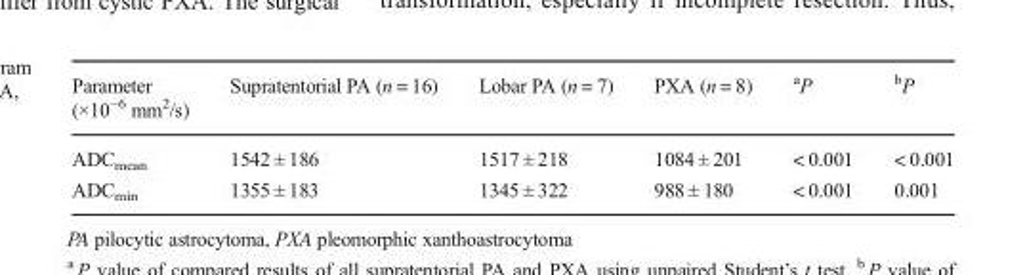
<table><thead><tr><td>Parameter (×10<sup>−6</sup> mm<sup>2</sup>/s)</td><td>Supratentorial PA (n = 16)</td><td>Lobar PA (n = 7)</td><td>PXA (n = 8)</td><td><sup>a</sup>P</td><td><sup>b</sup>P</td></tr></thead><tbody><tr><td>ADC<sub>mean</sub></td><td>1542 ± 186</td><td>1517 ± 218</td><td>1084 ± 201</td><td>&lt; 0.001</td><td>&lt; 0.001</td></tr><tr><td>ADC<sub>min</sub></td><td>1355 ± 183</td><td>1345 ± 322</td><td>988 ± 180</td><td>&lt; 0.001</td><td>0.001</td></tr></tbody></table>